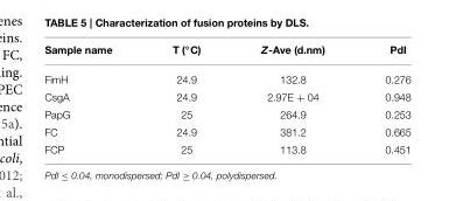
<table><thead><tr><td>Sample name</td><td>T (◦C)</td><td>Z-Ave (d.nm)</td><td>PdI</td></tr></thead><tbody><tr><td>FimH</td><td>24.9</td><td>132.8</td><td>0.276</td></tr><tr><td>CsgA</td><td>24.9</td><td>2.97E + 04</td><td>0.948</td></tr><tr><td>PapG</td><td>25</td><td>264.9</td><td>0.253</td></tr><tr><td>FC</td><td>24.9</td><td>381.2</td><td>0.665</td></tr><tr><td>FCP</td><td>25</td><td>113.8</td><td>0.451</td></tr></tbody></table>